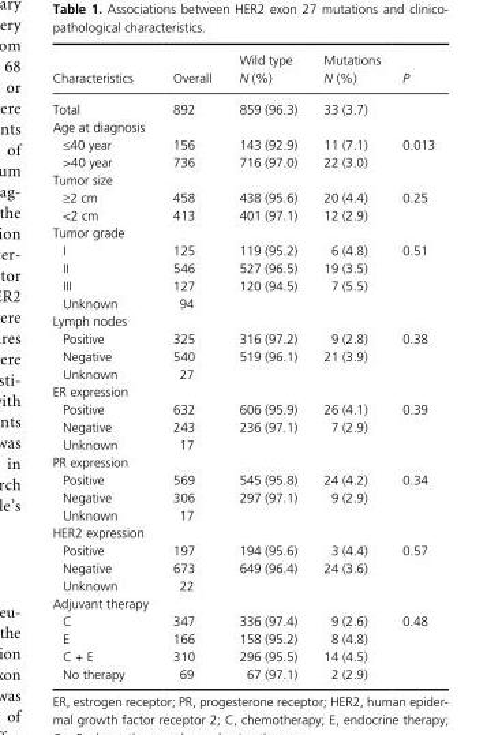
<table><thead><tr><td>Characteristics</td><td>Overall</td><td>Wild type N (%)</td><td>Mutations N (%)</td><td>P</td></tr></thead><tbody><tr><td>Total</td><td>892</td><td>859 (96.3)</td><td>33 (3.7)</td><td></td></tr><tr><td colspan="5">Age at diagnosis</td></tr><tr><td>≤40 year</td><td>156</td><td>143 (92.9)</td><td>11 (7.1)</td><td>0.013</td></tr><tr><td>&gt;40 year</td><td>736</td><td>716 (97.0)</td><td>22 (3.0)</td><td></td></tr><tr><td colspan="5">Tumor size</td></tr><tr><td>≥2 cm</td><td>458</td><td>438 (95.6)</td><td>20 (4.4)</td><td>0.25</td></tr><tr><td>&lt;2 cm</td><td>413</td><td>401 (97.1)</td><td>12 (2.9)</td><td></td></tr><tr><td colspan="5">Tumor grade</td></tr><tr><td>I</td><td>125</td><td>119 (95.2)</td><td>6 (4.8)</td><td>0.51</td></tr><tr><td>II</td><td>546</td><td>527 (96.5)</td><td>19 (3.5)</td><td></td></tr><tr><td>III</td><td>127</td><td>120 (94.5)</td><td>7 (5.5)</td><td></td></tr><tr><td>Unknown</td><td>94</td><td></td><td></td><td></td></tr><tr><td colspan="5">Lymph nodes</td></tr><tr><td>Positive</td><td>325</td><td>316 (97.2)</td><td>9 (2.8)</td><td>0.38</td></tr><tr><td>Negative</td><td>540</td><td>519 (96.1)</td><td>21 (3.9)</td><td></td></tr><tr><td>Unknown</td><td colspan="4">27</td></tr><tr><td colspan="5">ER expression</td></tr><tr><td>Positive</td><td>632</td><td>606 (95.9)</td><td>26 (4.1)</td><td>0.39</td></tr><tr><td>Negative</td><td>243</td><td>236 (97.1)</td><td>7 (2.9)</td><td></td></tr><tr><td>Unknown</td><td colspan="4">17</td></tr><tr><td colspan="5">PR expression</td></tr><tr><td>Positive</td><td>569</td><td>545 (95.8)</td><td>24 (4.2)</td><td>0.34</td></tr><tr><td>Negative</td><td>306</td><td>297 (97.1)</td><td>9 (2.9)</td><td></td></tr><tr><td>Unknown</td><td colspan="4">17</td></tr><tr><td colspan="5">HER2 expression</td></tr><tr><td>Positive</td><td>197</td><td>194 (95.6)</td><td>3 (4.4)</td><td>0.57</td></tr><tr><td>Negative</td><td>673</td><td>649 (96.4)</td><td>24 (3.6)</td><td></td></tr><tr><td>Unknown</td><td colspan="4">22</td></tr><tr><td colspan="5">Adjuvant therapy</td></tr><tr><td>C</td><td>347</td><td>336 (97.4)</td><td>9 (2.6)</td><td>0.48</td></tr><tr><td>E</td><td>166</td><td>158 (95.2)</td><td>8 (4.8)</td><td></td></tr><tr><td>C + E</td><td>310</td><td>296 (95.5)</td><td>14 (4.5)</td><td></td></tr><tr><td>No therapy</td><td>69</td><td>67 (97.1)</td><td>2 (2.9)</td><td></td></tr></tbody></table>